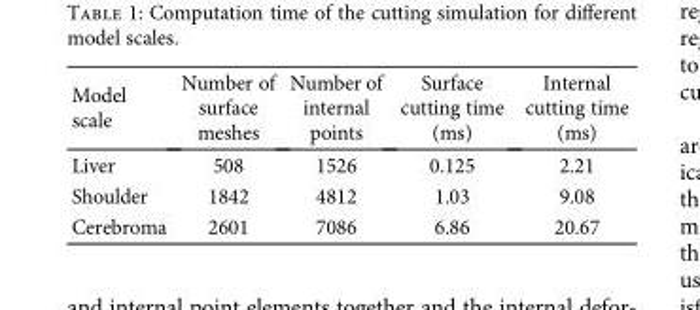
<table><thead><tr><td>Model scale</td><td>Number of surface meshes</td><td>Number of internal points</td><td>Surface cutting time (ms)</td><td>Internal cutting time (ms)</td></tr></thead><tbody><tr><td>Liver</td><td>508</td><td>1526</td><td>0.125</td><td>2.21</td></tr><tr><td>Shoulder</td><td>1842</td><td>4812</td><td>1.03</td><td>9.08</td></tr><tr><td>Cerebroma</td><td>2601</td><td>7086</td><td>6.86</td><td>20.67</td></tr></tbody></table>